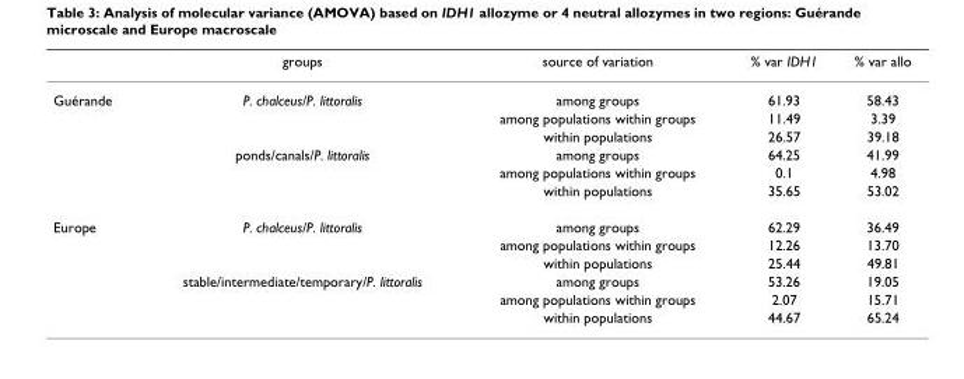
<table><thead><tr><td></td><td>groups</td><td>source of variation</td><td>% var IDH1</td><td>% var allo</td></tr></thead><tbody><tr><td rowspan="6">Guérande</td><td>P. chalceus/P. littoralis</td><td>among groups</td><td>61.93</td><td>58.43</td></tr><tr><td></td><td>among populations within groups</td><td>11.49</td><td>3.39</td></tr><tr><td></td><td>within populations</td><td>26.57</td><td>39.18</td></tr><tr><td>ponds/canals/P. littoralis</td><td>among groups</td><td>64.25</td><td>41.99</td></tr><tr><td></td><td>among populations within groups</td><td>0.1</td><td>4.98</td></tr><tr><td></td><td>within populations</td><td>35.65</td><td>53.02</td></tr><tr><td rowspan="6">Europe</td><td>P. chalceus/P. littoralis</td><td>among groups</td><td>62.29</td><td>36.49</td></tr><tr><td></td><td>among populations within groups</td><td>12.26</td><td>13.70</td></tr><tr><td></td><td>within populations</td><td>25.44</td><td>49.81</td></tr><tr><td>stable/intermediate/temporary/P. littoralis</td><td>among groups</td><td>53.26</td><td>19.05</td></tr><tr><td></td><td>among populations within groups</td><td>2.07</td><td>15.71</td></tr><tr><td></td><td>within populations</td><td>44.67</td><td>65.24</td></tr></tbody></table>